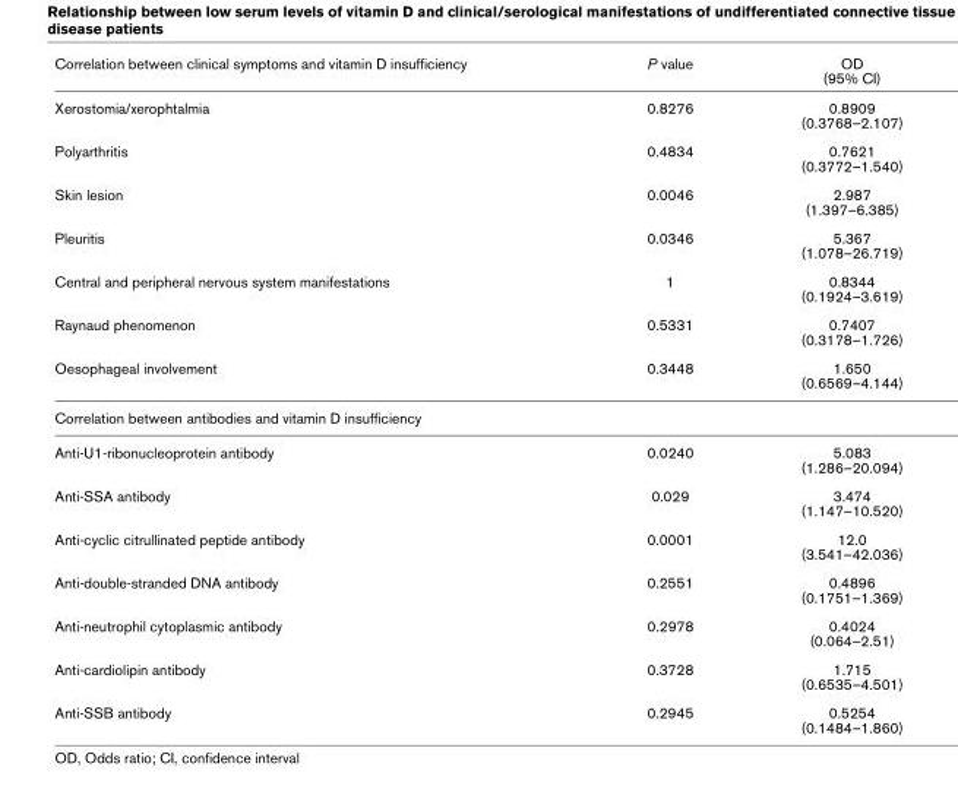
<table><thead><tr><td>Correlation between clinical symptoms and vitamin D insufficiency</td><td>P value</td><td>OD (95% CI)</td></tr></thead><tbody><tr><td>Xerostomia/xerophtalmia</td><td>0.8276</td><td>0.8909 (0.3768–2.107)</td></tr><tr><td>Polyarthritis</td><td>0.4834</td><td>0.7621 (0.3772–1.540)</td></tr><tr><td>Skin lesion</td><td>0.0046</td><td>2.987 (1.397–6.385)</td></tr><tr><td>Pleuritis</td><td>0.0346</td><td>5.367 (1.078–26.719)</td></tr><tr><td>Central and peripheral nervous system manifestations</td><td>1</td><td>0.8344 (0.1924–3.619)</td></tr><tr><td>Raynaud phenomenon</td><td>0.5331</td><td>0.7407 (0.3178–1.726)</td></tr><tr><td>Oesophageal involvement</td><td>0.3448</td><td>1.650 (0.6569–4.144)</td></tr><tr><td colspan="3">Correlation between antibodies and vitamin D insufficiency</td></tr><tr><td>Anti-U1-ribonucleoprotein antibody</td><td>0.0240</td><td>5.083 (1.286–20.094)</td></tr><tr><td>Anti-SSA antibody</td><td>0.029</td><td>3.474 (1.147–10.520)</td></tr><tr><td>Anti-cyclic citrullinated peptide antibody</td><td>0.0001</td><td>12.0 (3.541–42.036)</td></tr><tr><td>Anti-double-stranded DNA antibody</td><td>0.2551</td><td>0.4896 (0.1751–1.369)</td></tr><tr><td>Anti-neutrophil cytoplasmic antibody</td><td>0.2978</td><td>0.4024 (0.064–2.51)</td></tr><tr><td>Anti-cardiolipin antibody</td><td>0.3728</td><td>1.715 (0.6535–4.501)</td></tr><tr><td>Anti-SSB antibody</td><td>0.2945</td><td>0.5254 (0.1484–1.860)</td></tr></tbody></table>